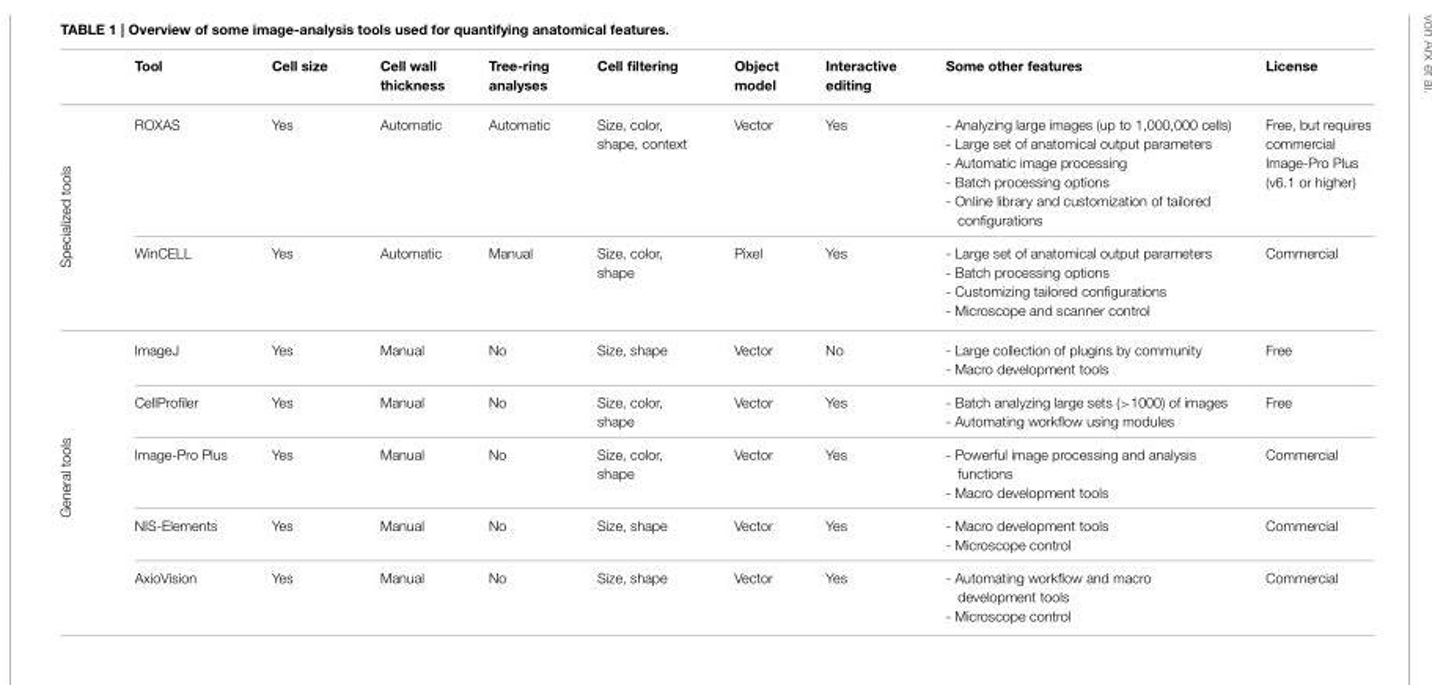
<table><thead><tr><td></td><td>Tool</td><td>Cell size</td><td>Cell wall thickness</td><td>Tree-ring analyses</td><td>Cell filtering</td><td>Object model</td><td>Interactive editing</td><td>Some other features</td><td>License</td></tr></thead><tbody><tr><td rowspan="2">Specialized tools</td><td>ROXAS</td><td>Yes</td><td>Automatic</td><td>Automatic</td><td>Size, color, shape, context</td><td>Vector</td><td>Yes</td><td>- Analyzing large images (up to 1,000,000 cells) - Large set of anatomical output parameters - Automatic image processing - Batch processing options - Online library and customization of tailored configurations</td><td>Free, but requires commercial Image-Pro Plus (v6.1 or higher)</td></tr><tr><td>WinCELL</td><td>Yes</td><td>Automatic</td><td>Manual</td><td>Size, color, shape</td><td>Pixel</td><td>Yes</td><td>- Large set of anatomical output parameters - Batch processing options - Customizing tailored configurations - Microscope and scanner control</td><td>Commercial</td></tr><tr><td rowspan="5">General tools</td><td>ImageJ</td><td>Yes</td><td>Manual</td><td>No</td><td>Size, shape</td><td>Vector</td><td>No</td><td>- Large collection of plugins by community - Macro development tools</td><td>Free</td></tr><tr><td>CellProfiler</td><td>Yes</td><td>Manual</td><td>No</td><td>Size, color, shape</td><td>Vector</td><td>Yes</td><td>- Batch analyzing large sets (&gt;1000) of images - Automating workflow using modules</td><td>Free</td></tr><tr><td>Image-Pro Plus</td><td>Yes</td><td>Manual</td><td>No</td><td>Size, color, shape</td><td>Vector</td><td>Yes</td><td>- Powerful image processing and analysis functions - Macro development tools</td><td>Commercial</td></tr><tr><td>NIS-Elements</td><td>Yes</td><td>Manual</td><td>No</td><td>Size, shape</td><td>Vector</td><td>Yes</td><td>- Macro development tools - Microscope control</td><td>Commercial</td></tr><tr><td>AxioVision</td><td>Yes</td><td>Manual</td><td>No</td><td>Size, shape</td><td>Vector</td><td>Yes</td><td>- Automating workflow and macro development tools - Microscope control</td><td>Commercial</td></tr></tbody></table>